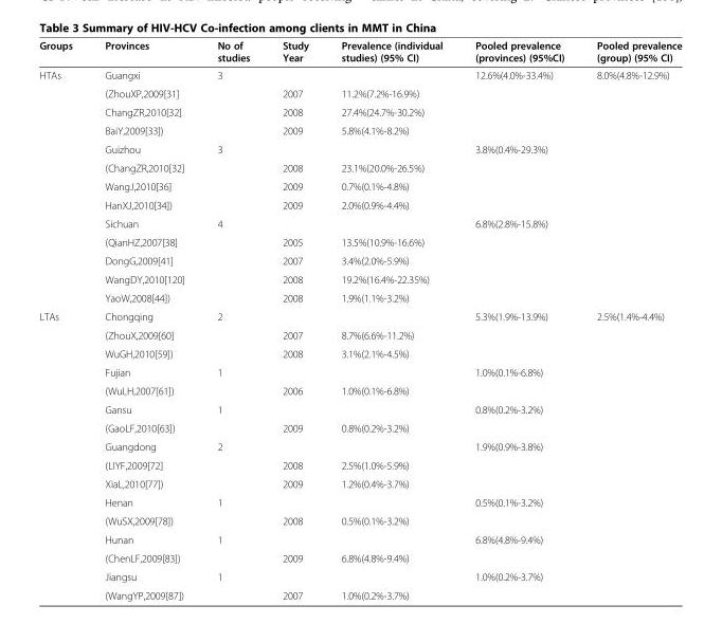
<table><thead><tr><td>Groups</td><td>Provinces</td><td>No of studies</td><td>Study Year</td><td>Prevalence (individual studies) (95% CI)</td><td>Pooled prevalence (provinces) (95%CI)</td><td>Pooled prevalence (group) (95% CI)</td></tr></thead><tbody><tr><td rowspan="13">HTAs</td><td>Guangxi</td><td>3</td><td></td><td></td><td>12.6%(4.0%-33.4%)</td><td rowspan="13">8.0%(4.8%-12.9%)</td></tr><tr><td>(ZhouXP,2009[31]</td><td></td><td>2007</td><td>11.2%(7.2%-16.9%)</td><td></td></tr><tr><td>ChangZR,2010[32]</td><td></td><td>2008</td><td>27.4%(24.7%-30.2%)</td><td></td></tr><tr><td>BaiY,2009[33])</td><td></td><td>2009</td><td>5.8%(4.1%-8.2%)</td><td></td></tr><tr><td>Guizhou</td><td>3</td><td></td><td></td><td>3.8%(0.4%-29.3%)</td></tr><tr><td>(ChangZR,2010[32]</td><td></td><td>2008</td><td>23.1%(20.0%-26.5%)</td><td></td></tr><tr><td>WangJ,2010[36]</td><td></td><td>2009</td><td>0.7%(0.1%-4.8%)</td><td></td></tr><tr><td>HanXJ,2010[34])</td><td></td><td>2009</td><td>2.0%(0.9%-4.4%)</td><td></td></tr><tr><td>Sichuan</td><td>4</td><td></td><td></td><td>6.8%(2.8%-15.8%)</td></tr><tr><td>(QianHZ,2007[38]</td><td></td><td>2005</td><td>13.5%(10.9%-16.6%)</td><td></td></tr><tr><td>DongG,2009[41]</td><td></td><td>2007</td><td>3.4%(2.0%-5.9%)</td><td></td></tr><tr><td>WangDY,2010[120]</td><td></td><td>2008</td><td>19.2%(16.4%-22.35%)</td><td></td></tr><tr><td>YaoW,2008[44])</td><td></td><td>2008</td><td>1.9%(1.1%-3.2%)</td><td></td></tr><tr><td rowspan="16">LTAs</td><td>Chongqing</td><td>2</td><td></td><td></td><td>5.3%(1.9%-13.9%)</td><td rowspan="16">2.5%(1.4%-4.4%)</td></tr><tr><td>(ZhouX,2009[60]</td><td></td><td>2007</td><td>8.7%(6.6%-11.2%)</td><td></td></tr><tr><td>WuGH,2010[59])</td><td></td><td>2008</td><td>3.1%(2.1%-4.5%)</td><td></td></tr><tr><td>Fujian</td><td>1</td><td></td><td></td><td>1.0%(0.1%-6.8%)</td></tr><tr><td>(WuLH,2007[61])</td><td></td><td>2006</td><td>1.0%(0.1%-6.8%)</td><td></td></tr><tr><td>Gansu</td><td>1</td><td></td><td></td><td>0.8%(0.2%-3.2%)</td></tr><tr><td>(GaoLF,2010[63])</td><td></td><td>2009</td><td>0.8%(0.2%-3.2%)</td><td></td></tr><tr><td>Guangdong</td><td>2</td><td></td><td></td><td>1.9%(0.9%-3.8%)</td></tr><tr><td>(LIYF,2009[72]</td><td></td><td>2008</td><td>2.5%(1.0%-5.9%)</td><td></td></tr><tr><td>XiaL,2010[77])</td><td></td><td>2009</td><td>1.2%(0.4%-3.7%)</td><td></td></tr><tr><td>Henan</td><td>1</td><td></td><td></td><td>0.5%(0.1%-3.2%)</td></tr><tr><td>(WuSX,2009[78])</td><td></td><td>2008</td><td>0.5%(0.1%-3.2%)</td><td></td></tr><tr><td>Hunan</td><td>1</td><td></td><td></td><td>6.8%(4.8%-9.4%)</td></tr><tr><td>(ChenLF,2009[83])</td><td></td><td>2009</td><td>6.8%(4.8%-9.4%)</td><td></td></tr><tr><td>Jiangsu</td><td>1</td><td></td><td></td><td>1.0%(0.2%-3.7%)</td></tr><tr><td>(WangYP,2009[87])</td><td></td><td>2007</td><td>1.0%(0.2%-3.7%)</td><td></td></tr></tbody></table>